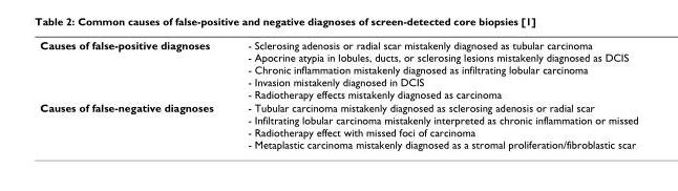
<table><thead><tr><td>Causes of false-positive diagnoses</td><td>- Sclerosing adenosis or radial scar mistakenly diagnosed as tubular carcinoma - Apocrine atypia in lobules, ducts, or sclerosing lesions mistakenly diagnosed as DCIS - Chronic inflammation mistakenly diagnosed as infiltrating lobular carcinoma - Invasion mistakenly diagnosed in DCIS - Radiotherapy effects mistakenly diagnosed as carcinoma</td></tr></thead><tbody><tr><td>Causes of false-negative diagnoses</td><td>- Tubular carcinoma mistakenly diagnosed as sclerosing adenosis or radial scar - Infiltrating lobular carcinoma mistakenly interpreted as chronic inflammation or missed - Radiotherapy effect with missed foci of carcinoma - Metaplastic carcinoma mistakenly diagnosed as a stromal proliferation/fibroblastic scar</td></tr></tbody></table>